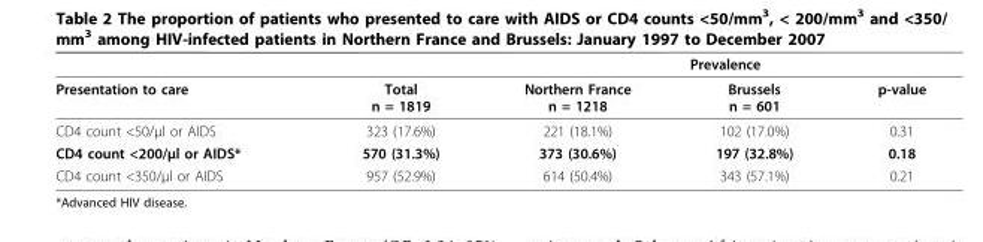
<table><thead><tr><td rowspan="2">Presentation to care</td><td rowspan="2">Total n = 1819</td><td colspan="3">Prevalence</td></tr><tr><td>Northern France n = 1218</td><td>Brussels n = 601</td><td>p-value</td></tr></thead><tbody><tr><td>CD4 count &lt;50/μl or AIDS</td><td>323 (17.6%)</td><td>221 (18.1%)</td><td>102 (17.0%)</td><td>0.31</td></tr><tr><td>CD4 count &lt;200/μl or AIDS*</td><td>570 (31.3%)</td><td>373 (30.6%)</td><td>197 (32.8%)</td><td>0.18</td></tr><tr><td>CD4 count &lt;350/μl or AIDS</td><td>957 (52.9%)</td><td>614 (50.4%)</td><td>343 (57.1%)</td><td>0.21</td></tr></tbody></table>